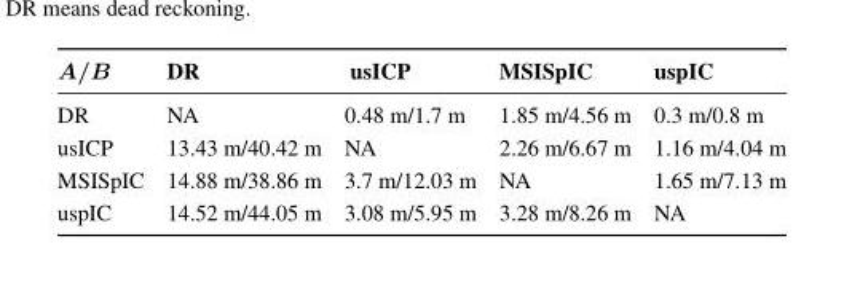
<table><thead><tr><td>A/B</td><td>DR</td><td>usICP</td><td>MSISpIC</td><td>uspIC</td></tr></thead><tbody><tr><td>DR</td><td>NA</td><td>0.48 m/1.7 m</td><td>1.85 m/4.56 m</td><td>0.3 m/0.8 m</td></tr><tr><td>usICP</td><td>13.43 m/40.42 m</td><td>NA</td><td>2.26 m/6.67 m</td><td>1.16 m/4.04 m</td></tr><tr><td>MSISpIC</td><td>14.88 m/38.86 m</td><td>3.7 m/12.03 m</td><td>NA</td><td>1.65 m/7.13 m</td></tr><tr><td>uspIC</td><td>14.52 m/44.05 m</td><td>3.08 m/5.95 m</td><td>3.28 m/8.26 m</td><td>NA</td></tr></tbody></table>